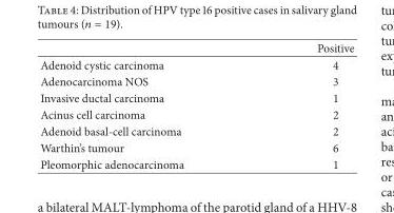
<table><thead><tr><td></td><td>Positive</td></tr></thead><tbody><tr><td>Adenoid cystic carcinoma</td><td>4</td></tr><tr><td>Adenocarcinoma NOS</td><td>3</td></tr><tr><td>Invasive ductal carcinoma</td><td>1</td></tr><tr><td>Acinus cell carcinoma</td><td>2</td></tr><tr><td>Adenoid basal-cell carcinoma</td><td>2</td></tr><tr><td>Warthin’s tumour</td><td>6</td></tr><tr><td>Pleomorphic adenocarcinoma</td><td>1</td></tr></tbody></table>